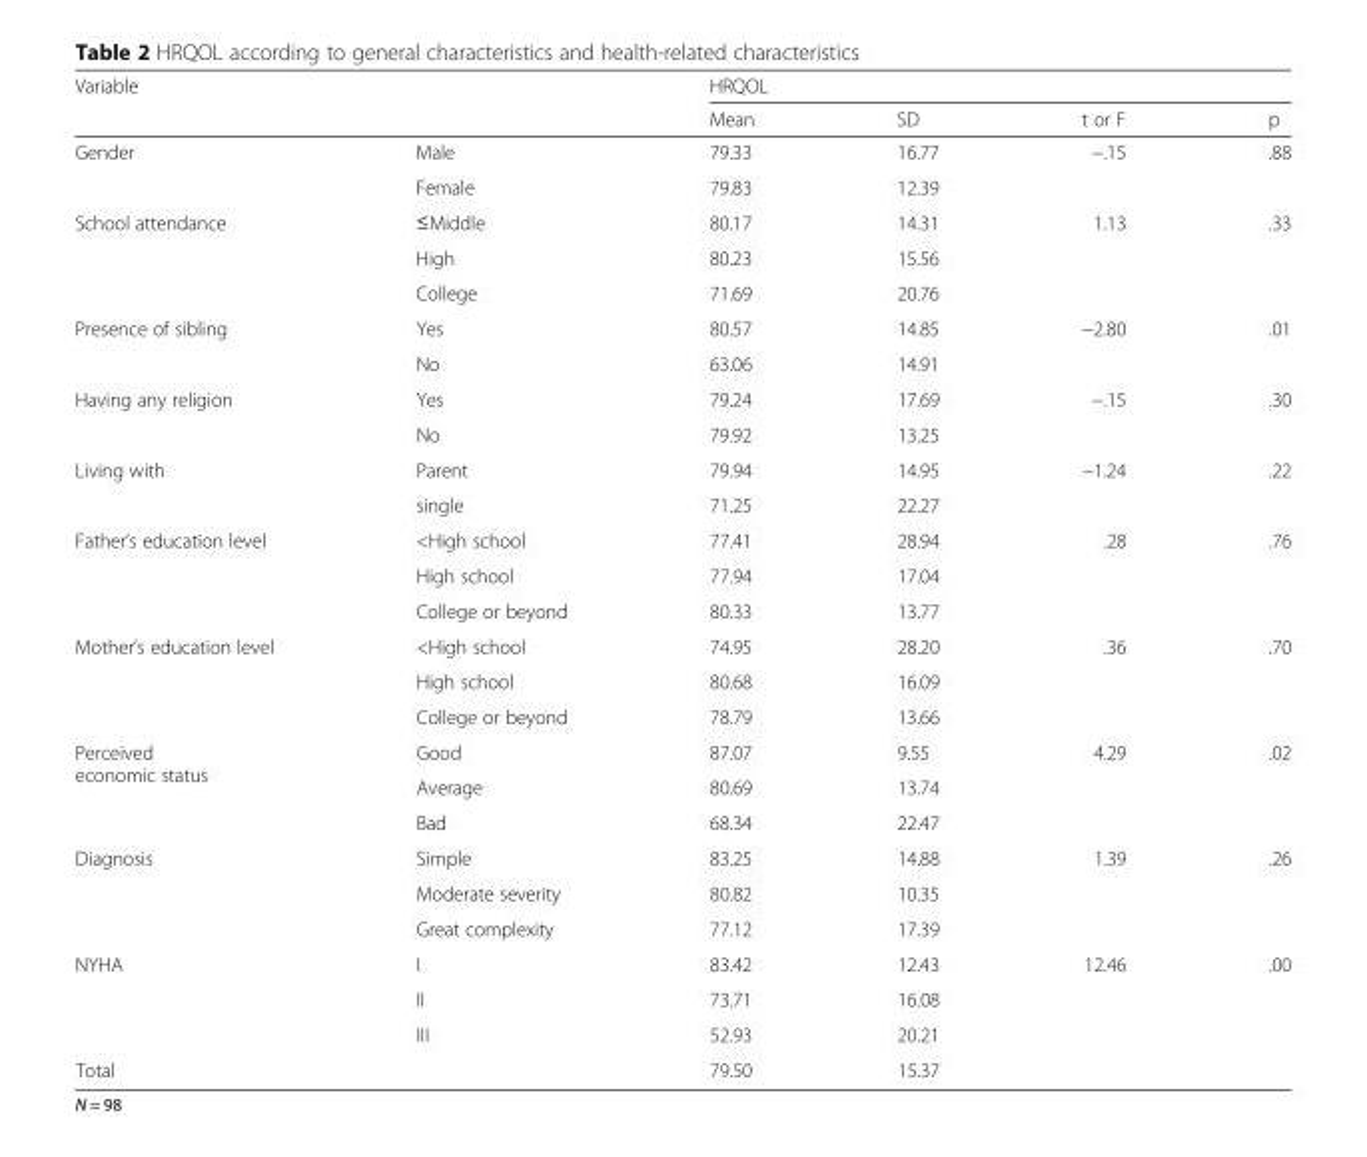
<table><thead><tr><td rowspan="2">Variable</td><td rowspan="2"></td><td colspan="4">HRQOL</td></tr><tr><td>Mean</td><td>SD</td><td>t or F</td><td>p</td></tr></thead><tbody><tr><td rowspan="2">Gender</td><td>Male</td><td>79.33</td><td>16.77</td><td>−.15</td><td>.88</td></tr><tr><td>Female</td><td>79.83</td><td>12.39</td><td></td><td></td></tr><tr><td rowspan="3">School attendance</td><td>≤Middle</td><td>80.17</td><td>14.31</td><td>1.13</td><td>.33</td></tr><tr><td>High</td><td>80.23</td><td>15.56</td><td></td><td></td></tr><tr><td>College</td><td>71.69</td><td>20.76</td><td></td><td></td></tr><tr><td rowspan="2">Presence of sibling</td><td>Yes</td><td>80.57</td><td>14.85</td><td>−2.80</td><td>.01</td></tr><tr><td>No</td><td>63.06</td><td>14.91</td><td></td><td></td></tr><tr><td rowspan="2">Having any religion</td><td>Yes</td><td>79.24</td><td>17.69</td><td>−.15</td><td>.30</td></tr><tr><td>No</td><td>79.92</td><td>13.25</td><td></td><td></td></tr><tr><td rowspan="2">Living with</td><td>Parent</td><td>79.94</td><td>14.95</td><td>−1.24</td><td>.22</td></tr><tr><td>single</td><td>71.25</td><td>22.27</td><td></td><td></td></tr><tr><td rowspan="3">Father’s education level</td><td>&lt;High school</td><td>77.41</td><td>28.94</td><td>.28</td><td>.76</td></tr><tr><td>High school</td><td>77.94</td><td>17.04</td><td></td><td></td></tr><tr><td>College or beyond</td><td>80.33</td><td>13.77</td><td></td><td></td></tr><tr><td rowspan="3">Mother’s education level</td><td>&lt;High school</td><td>74.95</td><td>28.20</td><td>.36</td><td>.70</td></tr><tr><td>High school</td><td>80.68</td><td>16.09</td><td></td><td></td></tr><tr><td>College or beyond</td><td>78.79</td><td>13.66</td><td></td><td></td></tr><tr><td rowspan="3">Perceived economic status</td><td>Good</td><td>87.07</td><td>9.55</td><td>4.29</td><td>.02</td></tr><tr><td>Average</td><td>80.69</td><td>13.74</td><td></td><td></td></tr><tr><td>Bad</td><td>68.34</td><td>22.47</td><td></td><td></td></tr><tr><td rowspan="3">Diagnosis</td><td>Simple</td><td>83.25</td><td>14.88</td><td>1.39</td><td>.26</td></tr><tr><td>Moderate severity</td><td>80.82</td><td>10.35</td><td></td><td></td></tr><tr><td>Great complexity</td><td>77.12</td><td>17.39</td><td></td><td></td></tr><tr><td rowspan="3">NYHA</td><td>I</td><td>83.42</td><td>12.43</td><td>12.46</td><td>.00</td></tr><tr><td>II</td><td>73.71</td><td>16.08</td><td></td><td></td></tr><tr><td>III</td><td>52.93</td><td>20.21</td><td></td><td></td></tr><tr><td>Total</td><td></td><td>79.50</td><td>15.37</td><td colspan="2"></td></tr></tbody></table>